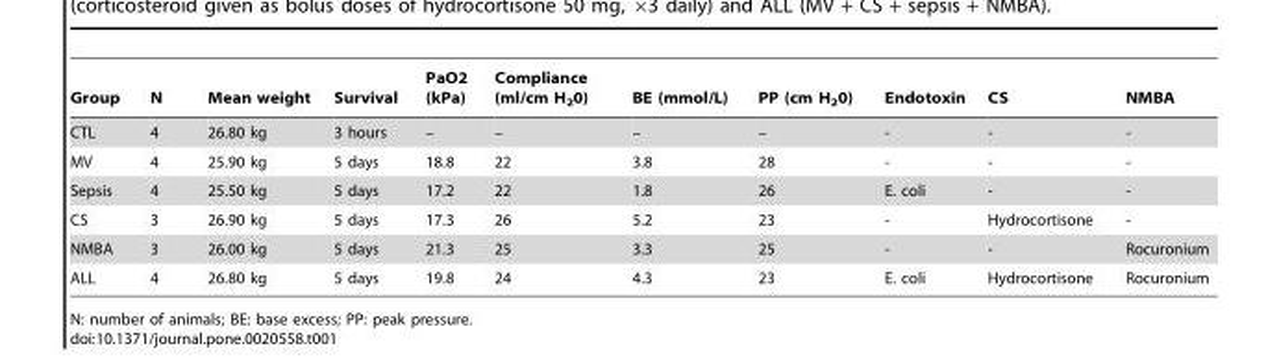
<table><thead><tr><td>Group</td><td>N</td><td>Mean weight</td><td>Survival</td><td>PaO2 (kPa)</td><td>Compliance (ml/cm H<sub>2</sub>0)</td><td>BE (mmol/L)</td><td>PP (cm H<sub>2</sub>0)</td><td>Endotoxin</td><td>CS</td><td>NMBA</td></tr></thead><tbody><tr><td>CTL</td><td>4</td><td>26.80 kg</td><td>3 hours</td><td>–</td><td>–</td><td>–</td><td>–</td><td>-</td><td>-</td><td>-</td></tr><tr><td>MV</td><td>4</td><td>25.90 kg</td><td>5 days</td><td>18.8</td><td>22</td><td>3.8</td><td>28</td><td>-</td><td>-</td><td>-</td></tr><tr><td>Sepsis</td><td>4</td><td>25.50 kg</td><td>5 days</td><td>17.2</td><td>22</td><td>1.8</td><td>26</td><td>E. coli</td><td>-</td><td>-</td></tr><tr><td>CS</td><td>3</td><td>26.90 kg</td><td>5 days</td><td>17.3</td><td>26</td><td>5.2</td><td>23</td><td>-</td><td>Hydrocortisone</td><td>-</td></tr><tr><td>NMBA</td><td>3</td><td>26.00 kg</td><td>5 days</td><td>21.3</td><td>25</td><td>3.3</td><td>25</td><td>-</td><td>-</td><td>Rocuronium</td></tr><tr><td>ALL</td><td>4</td><td>26.80 kg</td><td>5 days</td><td>19.8</td><td>24</td><td>4.3</td><td>23</td><td>E. coli</td><td>Hydrocortisone</td><td>Rocuronium</td></tr></tbody></table>